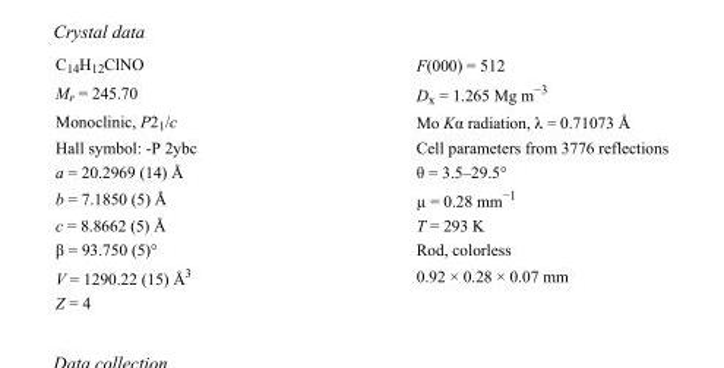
<table><tbody><tr><td>C<sub>14</sub>H<sub>12</sub>ClNO</td><td>F(000) = 512</td></tr><tr><td>M<sub>r</sub> = 245.70</td><td>D<sub>x</sub> = 1.265 Mg m<sup>−3</sup></td></tr><tr><td>Monoclinic, P2<sub>1</sub>/c</td><td>Mo Kα radiation, λ = 0.71073 Å</td></tr><tr><td>Hall symbol: -P 2ybc</td><td>Cell parameters from 3776 reflections</td></tr><tr><td>a = 20.2969 (14) Å</td><td>θ = 3.5–29.5°</td></tr><tr><td>b = 7.1850 (5) Å</td><td>µ = 0.28 mm<sup>−1</sup></td></tr><tr><td>c = 8.8662 (5) Å</td><td>T = 293 K</td></tr><tr><td>β = 93.750 (5)°</td><td>Rod, colorless</td></tr><tr><td>V = 1290.22 (15) Å<sup>3</sup></td><td>0.92 × 0.28 × 0.07 mm</td></tr><tr><td>Z = 4</td><td></td></tr></tbody></table>